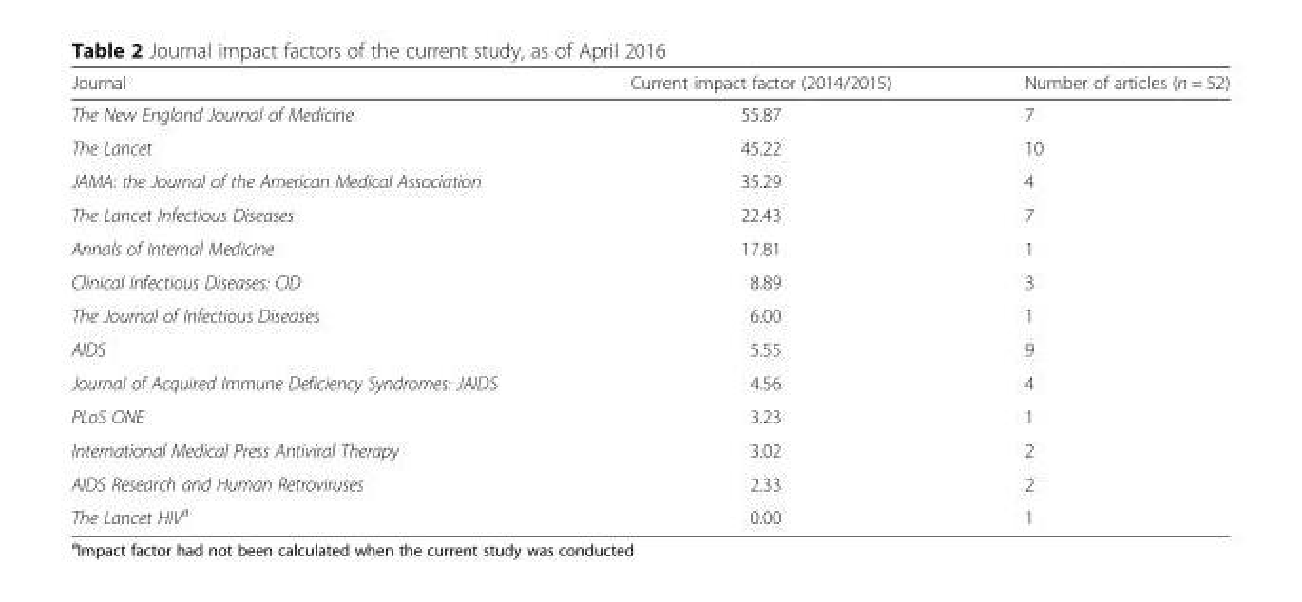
<table><thead><tr><td>Journal</td><td>Current impact factor (2014/2015)</td><td>Number of articles (n = 52)</td></tr></thead><tbody><tr><td>The New England Journal of Medicine</td><td>55.87</td><td>7</td></tr><tr><td>The Lancet</td><td>45.22</td><td>10</td></tr><tr><td>JAMA: the Journal of the American Medical Association</td><td>35.29</td><td>4</td></tr><tr><td>The Lancet Infectious Diseases</td><td>22.43</td><td>7</td></tr><tr><td>Annals of Internal Medicine</td><td>17.81</td><td>1</td></tr><tr><td>Clinical Infectious Diseases: CID</td><td>8.89</td><td>3</td></tr><tr><td>The Journal of Infectious Diseases</td><td>6.00</td><td>1</td></tr><tr><td>AIDS</td><td>5.55</td><td>9</td></tr><tr><td>Journal of Acquired Immune Deficiency Syndromes: JAIDS</td><td>4.56</td><td>4</td></tr><tr><td>PLoS ONE</td><td>3.23</td><td>1</td></tr><tr><td>International Medical Press Antiviral Therapy</td><td>3.02</td><td>2</td></tr><tr><td>AIDS Research and Human Retroviruses</td><td>2.33</td><td>2</td></tr><tr><td>The Lancet HIV<sup>a</sup></td><td>0.00</td><td>1</td></tr></tbody></table>